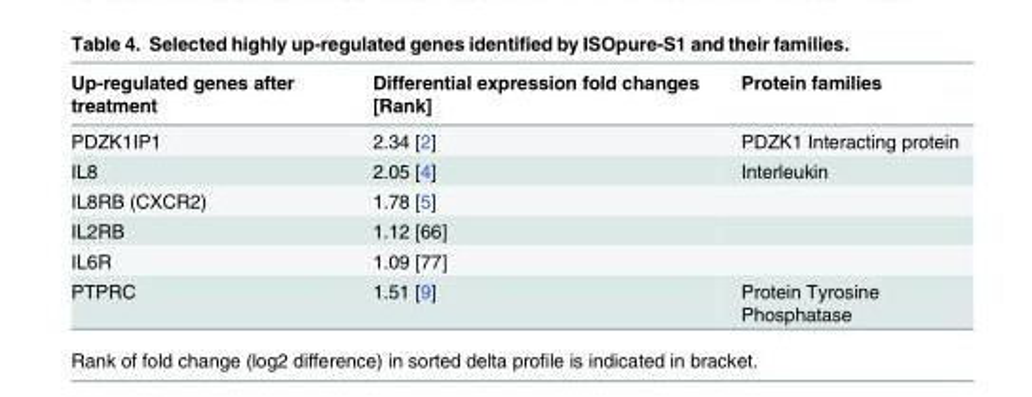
<table><thead><tr><td>Up-regulated genes after treatment</td><td>Differential expression fold changes [Rank]</td><td>Protein families</td></tr></thead><tbody><tr><td>PDZK1IP1</td><td>2.34 [2]</td><td>PDZK1 Interacting protein</td></tr><tr><td>IL8</td><td>2.05 [4]</td><td>Interleukin</td></tr><tr><td>IL8RB (CXCR2)</td><td>1.78 [5]</td><td></td></tr><tr><td>IL2RB</td><td>1.12 [66]</td><td></td></tr><tr><td>IL6R</td><td>1.09 [77]</td><td></td></tr><tr><td>PTPRC</td><td>1.51 [9]</td><td>Protein Tyrosine Phosphatase</td></tr></tbody></table>